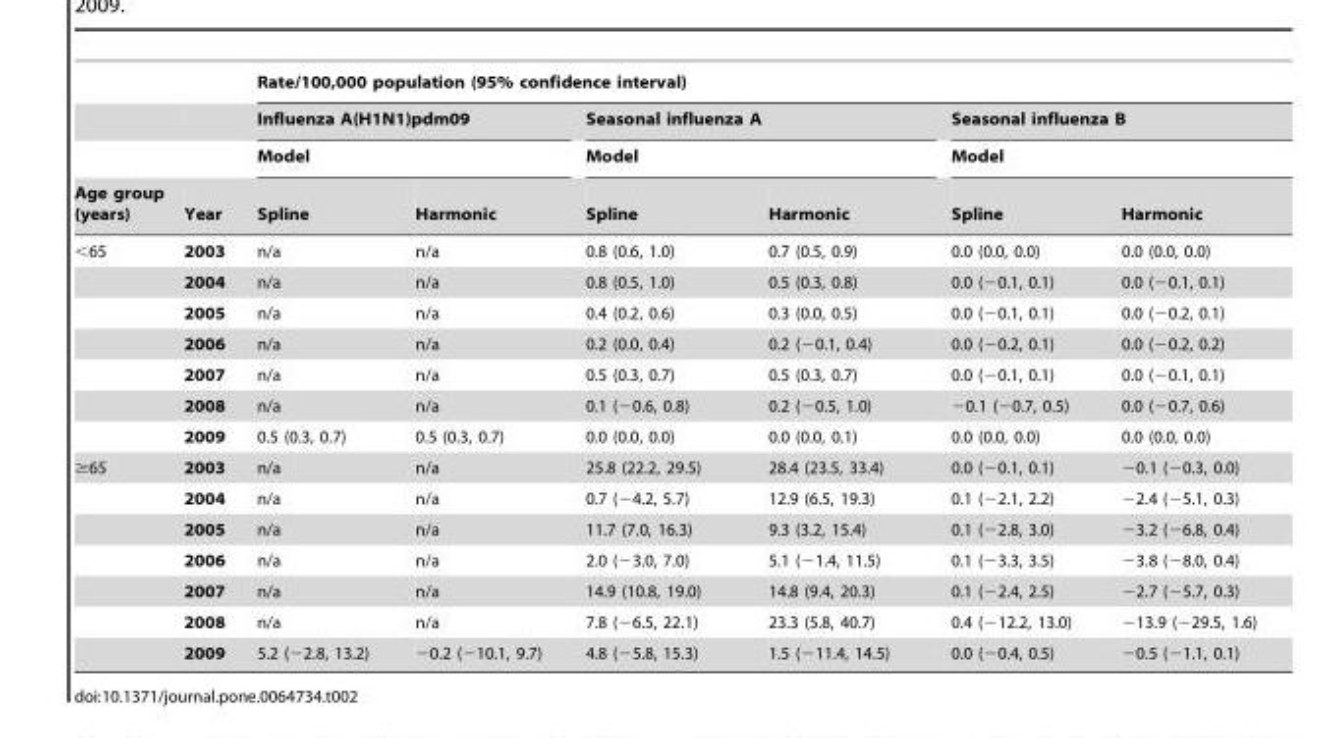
<table><thead><tr><td rowspan="4">Age group (years)</td><td rowspan="4">Year</td><td colspan="6">Rate/100,000 population (95% confidence interval)</td></tr><tr><td rowspan="2" colspan="2">Influenza A(H1N1)pdm09 Model</td><td rowspan="2" colspan="2">Seasonal influenza A Model</td><td rowspan="2" colspan="2">Seasonal influenza B Model</td></tr><tr></tr><tr><td>Spline</td><td>Harmonic</td><td>Spline</td><td>Harmonic</td><td>Spline</td><td>Harmonic</td></tr></thead><tbody><tr><td rowspan="7">&lt;65</td><td>2003</td><td>n/a</td><td>n/a</td><td>0.8 (0.6, 1.0)</td><td>0.7 (0.5, 0.9)</td><td>0.0 (0.0, 0.0)</td><td>0.0 (0.0, 0.0)</td></tr><tr><td>2004</td><td>n/a</td><td>n/a</td><td>0.8 (0.5, 1.0)</td><td>0.5 (0.3, 0.8)</td><td>0.0 (−0.1, 0.1)</td><td>0.0 (−0.1, 0.1)</td></tr><tr><td>2005</td><td>n/a</td><td>n/a</td><td>0.4 (0.2, 0.6)</td><td>0.3 (0.0, 0.5)</td><td>0.0 (−0.1, 0.1)</td><td>0.0 (−0.2, 0.1)</td></tr><tr><td>2006</td><td>n/a</td><td>n/a</td><td>0.2 (0.0, 0.4)</td><td>0.2 (−0.1, 0.4)</td><td>0.0 (−0.2, 0.1)</td><td>0.0 (−0.2, 0.2)</td></tr><tr><td>2007</td><td>n/a</td><td>n/a</td><td>0.5 (0.3, 0.7)</td><td>0.5 (0.3, 0.7)</td><td>0.0 (−0.1, 0.1)</td><td>0.0 (−0.1, 0.1)</td></tr><tr><td>2008</td><td>n/a</td><td>n/a</td><td>0.1 (−0.6, 0.8)</td><td>0.2 (−0.5, 1.0)</td><td>−0.1 (−0.7, 0.5)</td><td>0.0 (−0.7, 0.6)</td></tr><tr><td>2009</td><td>0.5 (0.3, 0.7)</td><td>0.5 (0.3, 0.7)</td><td>0.0 (0.0, 0.0)</td><td>0.0 (0.0, 0.1)</td><td>0.0 (0.0, 0.0)</td><td>0.0 (0.0, 0.0)</td></tr><tr><td rowspan="7">≥65</td><td>2003</td><td>n/a</td><td>n/a</td><td>25.8 (22.2, 29.5)</td><td>28.4 (23.5, 33.4)</td><td>0.0 (−0.1, 0.1)</td><td>−0.1 (−0.3, 0.0)</td></tr><tr><td>2004</td><td>n/a</td><td>n/a</td><td>0.7 (−4.2, 5.7)</td><td>12.9 (6.5, 19.3)</td><td>0.1 (−2.1, 2.2)</td><td>−2.4 (−5.1, 0.3)</td></tr><tr><td>2005</td><td>n/a</td><td>n/a</td><td>11.7 (7.0, 16.3)</td><td>9.3 (3.2, 15.4)</td><td>0.1 (−2.8, 3.0)</td><td>−3.2 (−6.8, 0.4)</td></tr><tr><td>2006</td><td>n/a</td><td>n/a</td><td>2.0 (−3.0, 7.0)</td><td>5.1 (−1.4, 11.5)</td><td>0.1 (−3.3, 3.5)</td><td>−3.8 (−8.0, 0.4)</td></tr><tr><td>2007</td><td>n/a</td><td>n/a</td><td>14.9 (10.8, 19.0)</td><td>14.8 (9.4, 20.3)</td><td>0.1 (−2.4, 2.5)</td><td>−2.7 (−5.7, 0.3)</td></tr><tr><td>2008</td><td>n/a</td><td>n/a</td><td>7.8 (−6.5, 22.1)</td><td>23.3 (5.8, 40.7)</td><td>0.4 (−12.2, 13.0)</td><td>−13.9 (−29.5, 1.6)</td></tr><tr><td>2009</td><td>5.2 (−2.8, 13.2)</td><td>−0.2 (−10.1, 9.7)</td><td>4.8 (−5.8, 15.3)</td><td>1.5 (−11.4, 14.5)</td><td>0.0 (−0.4, 0.5)</td><td>−0.5 (−1.1, 0.1)</td></tr></tbody></table>